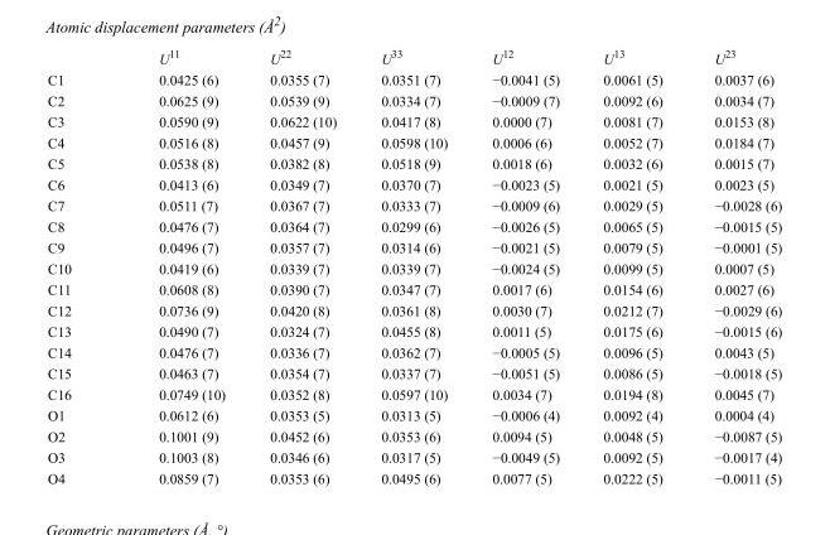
<table><thead><tr><td></td><td>U<sup>11</sup></td><td>U<sup>22</sup></td><td>U<sup>33</sup></td><td>U<sup>12</sup></td><td>U<sup>13</sup></td><td>U<sup>23</sup></td></tr></thead><tbody><tr><td>C1</td><td>0.0425 (6)</td><td>0.0355 (7)</td><td>0.0351 (7)</td><td>−0.0041 (5)</td><td>0.0061 (5)</td><td>0.0037 (6)</td></tr><tr><td>C2</td><td>0.0625 (9)</td><td>0.0539 (9)</td><td>0.0334 (7)</td><td>−0.0009 (7)</td><td>0.0092 (6)</td><td>0.0034 (7)</td></tr><tr><td>C3</td><td>0.0590 (9)</td><td>0.0622 (10)</td><td>0.0417 (8)</td><td>0.0000 (7)</td><td>0.0081 (7)</td><td>0.0153 (8)</td></tr><tr><td>C4</td><td>0.0516 (8)</td><td>0.0457 (9)</td><td>0.0598 (10)</td><td>0.0006 (6)</td><td>0.0052 (7)</td><td>0.0184 (7)</td></tr><tr><td>C5</td><td>0.0538 (8)</td><td>0.0382 (8)</td><td>0.0518 (9)</td><td>0.0018 (6)</td><td>0.0032 (6)</td><td>0.0015 (7)</td></tr><tr><td>C6</td><td>0.0413 (6)</td><td>0.0349 (7)</td><td>0.0370 (7)</td><td>−0.0023 (5)</td><td>0.0021 (5)</td><td>0.0023 (5)</td></tr><tr><td>C7</td><td>0.0511 (7)</td><td>0.0367 (7)</td><td>0.0333 (7)</td><td>−0.0009 (6)</td><td>0.0029 (5)</td><td>−0.0028 (6)</td></tr><tr><td>C8</td><td>0.0476 (7)</td><td>0.0364 (7)</td><td>0.0299 (6)</td><td>−0.0026 (5)</td><td>0.0065 (5)</td><td>−0.0015 (5)</td></tr><tr><td>C9</td><td>0.0496 (7)</td><td>0.0357 (7)</td><td>0.0314 (6)</td><td>−0.0021 (5)</td><td>0.0079 (5)</td><td>−0.0001 (5)</td></tr><tr><td>C10</td><td>0.0419 (6)</td><td>0.0339 (7)</td><td>0.0339 (7)</td><td>−0.0024 (5)</td><td>0.0099 (5)</td><td>0.0007 (5)</td></tr><tr><td>C11</td><td>0.0608 (8)</td><td>0.0390 (7)</td><td>0.0347 (7)</td><td>0.0017 (6)</td><td>0.0154 (6)</td><td>0.0027 (6)</td></tr><tr><td>C12</td><td>0.0736 (9)</td><td>0.0420 (8)</td><td>0.0361 (8)</td><td>0.0030 (7)</td><td>0.0212 (7)</td><td>−0.0029 (6)</td></tr><tr><td>C13</td><td>0.0490 (7)</td><td>0.0324 (7)</td><td>0.0455 (8)</td><td>0.0011 (5)</td><td>0.0175 (6)</td><td>−0.0015 (6)</td></tr><tr><td>C14</td><td>0.0476 (7)</td><td>0.0336 (7)</td><td>0.0362 (7)</td><td>−0.0005 (5)</td><td>0.0096 (5)</td><td>0.0043 (5)</td></tr><tr><td>C15</td><td>0.0463 (7)</td><td>0.0354 (7)</td><td>0.0337 (7)</td><td>−0.0051 (5)</td><td>0.0086 (5)</td><td>−0.0018 (5)</td></tr><tr><td>C16</td><td>0.0749 (10)</td><td>0.0352 (8)</td><td>0.0597 (10)</td><td>0.0034 (7)</td><td>0.0194 (8)</td><td>0.0045 (7)</td></tr><tr><td>O1</td><td>0.0612 (6)</td><td>0.0353 (5)</td><td>0.0313 (5)</td><td>−0.0006 (4)</td><td>0.0092 (4)</td><td>0.0004 (4)</td></tr><tr><td>O2</td><td>0.1001 (9)</td><td>0.0452 (6)</td><td>0.0353 (6)</td><td>0.0094 (5)</td><td>0.0048 (5)</td><td>−0.0087 (5)</td></tr><tr><td>O3</td><td>0.1003 (8)</td><td>0.0346 (6)</td><td>0.0317 (5)</td><td>−0.0049 (5)</td><td>0.0092 (5)</td><td>−0.0017 (4)</td></tr><tr><td>O4</td><td>0.0859 (7)</td><td>0.0353 (6)</td><td>0.0495 (6)</td><td>0.0077 (5)</td><td>0.0222 (5)</td><td>−0.0011 (5)</td></tr></tbody></table>